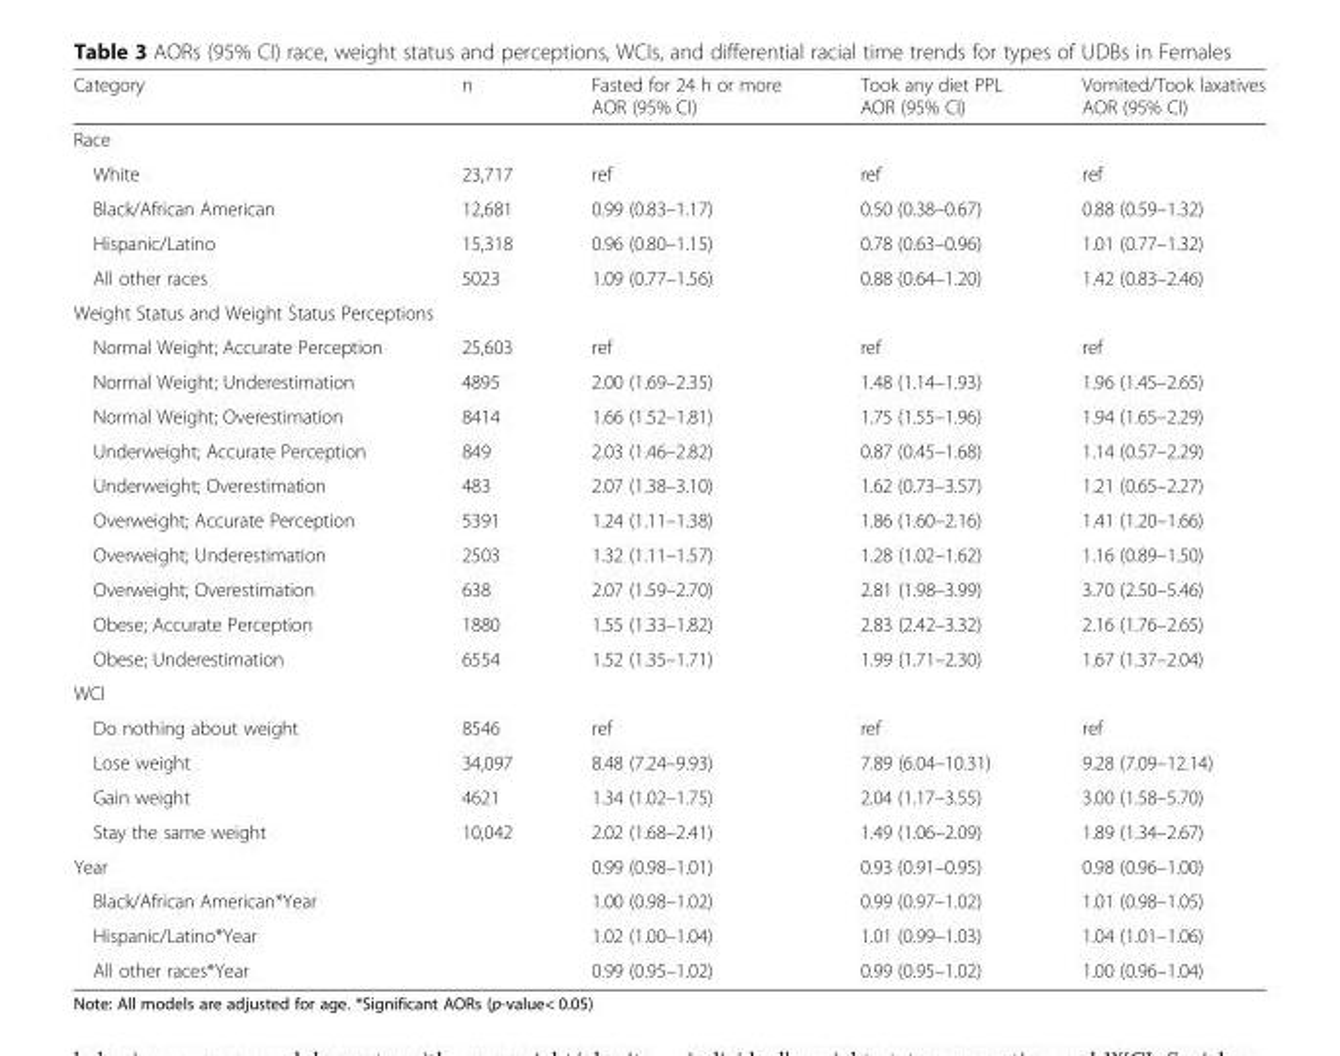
<table><thead><tr><td>Category</td><td>n</td><td>Fasted for 24 h or more AOR (95% CI)</td><td>Took any diet PPL AOR (95% CI)</td><td>Vomited/Took laxatives AOR (95% CI)</td></tr></thead><tbody><tr><td colspan="5">Race</td></tr><tr><td>White</td><td>23,717</td><td>ref</td><td>ref</td><td>ref</td></tr><tr><td>Black/African American</td><td>12,681</td><td>0.99 (0.83–1.17)</td><td>0.50 (0.38–0.67)</td><td>0.88 (0.59–1.32)</td></tr><tr><td>Hispanic/Latino</td><td>15,318</td><td>0.96 (0.80–1.15)</td><td>0.78 (0.63–0.96)</td><td>1.01 (0.77–1.32)</td></tr><tr><td>All other races</td><td>5023</td><td>1.09 (0.77–1.56)</td><td>0.88 (0.64–1.20)</td><td>1.42 (0.83–2.46)</td></tr><tr><td colspan="5">Weight Status and Weight Status Perceptions</td></tr><tr><td>Normal Weight; Accurate Perception</td><td>25,603</td><td>ref</td><td>ref</td><td>ref</td></tr><tr><td>Normal Weight; Underestimation</td><td>4895</td><td>2.00 (1.69–2.35)</td><td>1.48 (1.14–1.93)</td><td>1.96 (1.45–2.65)</td></tr><tr><td>Normal Weight; Overestimation</td><td>8414</td><td>1.66 (1.52–1.81)</td><td>1.75 (1.55–1.96)</td><td>1.94 (1.65–2.29)</td></tr><tr><td>Underweight; Accurate Perception</td><td>849</td><td>2.03 (1.46–2.82)</td><td>0.87 (0.45–1.68)</td><td>1.14 (0.57–2.29)</td></tr><tr><td>Underweight; Overestimation</td><td>483</td><td>2.07 (1.38–3.10)</td><td>1.62 (0.73–3.57)</td><td>1.21 (0.65–2.27)</td></tr><tr><td>Overweight; Accurate Perception</td><td>5391</td><td>1.24 (1.11–1.38)</td><td>1.86 (1.60–2.16)</td><td>1.41 (1.20–1.66)</td></tr><tr><td>Overweight; Underestimation</td><td>2503</td><td>1.32 (1.11–1.57)</td><td>1.28 (1.02–1.62)</td><td>1.16 (0.89–1.50)</td></tr><tr><td>Overweight; Overestimation</td><td>638</td><td>2.07 (1.59–2.70)</td><td>2.81 (1.98–3.99)</td><td>3.70 (2.50–5.46)</td></tr><tr><td>Obese; Accurate Perception</td><td>1880</td><td>1.55 (1.33–1.82)</td><td>2.83 (2.42–3.32)</td><td>2.16 (1.76–2.65)</td></tr><tr><td>Obese; Underestimation</td><td>6554</td><td>1.52 (1.35–1.71)</td><td>1.99 (1.71–2.30)</td><td>1.67 (1.37–2.04)</td></tr><tr><td colspan="5">WCI</td></tr><tr><td>Do nothing about weight</td><td>8546</td><td>ref</td><td>ref</td><td>ref</td></tr><tr><td>Lose weight</td><td>34,097</td><td>8.48 (7.24–9.93)</td><td>7.89 (6.04–10.31)</td><td>9.28 (7.09–12.14)</td></tr><tr><td>Gain weight</td><td>4621</td><td>1.34 (1.02–1.75)</td><td>2.04 (1.17–3.55)</td><td>3.00 (1.58–5.70)</td></tr><tr><td>Stay the same weight</td><td>10,042</td><td>2.02 (1.68–2.41)</td><td>1.49 (1.06–2.09)</td><td>1.89 (1.34–2.67)</td></tr><tr><td>Year</td><td></td><td>0.99 (0.98–1.01)</td><td>0.93 (0.91–0.95)</td><td>0.98 (0.96–1.00)</td></tr><tr><td>Black/African American*Year</td><td></td><td>1.00 (0.98–1.02)</td><td>0.99 (0.97–1.02)</td><td>1.01 (0.98–1.05)</td></tr><tr><td>Hispanic/Latino*Year</td><td></td><td>1.02 (1.00–1.04)</td><td>1.01 (0.99–1.03)</td><td>1.04 (1.01–1.06)</td></tr><tr><td>All other races*Year</td><td></td><td>0.99 (0.95–1.02)</td><td>0.99 (0.95–1.02)</td><td>1.00 (0.96–1.04)</td></tr></tbody></table>